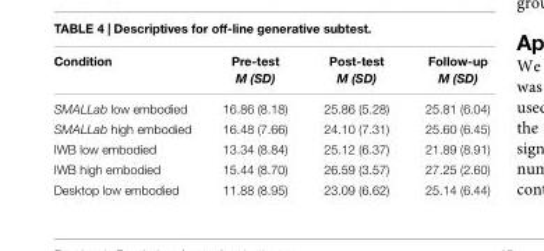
<table><thead><tr><td>Condition</td><td>Pre-test M (SD)</td><td>Post-test M (SD)</td><td>Follow-up M (SD)</td></tr></thead><tbody><tr><td>SMALLab low embodied</td><td>16.86 (8.18)</td><td>25.86 (5.28)</td><td>25.81 (6.04)</td></tr><tr><td>SMALLab high embodied</td><td>16.48 (7.66)</td><td>24.10 (7.31)</td><td>25.60 (6.45)</td></tr><tr><td>IWB low embodied</td><td>13.34 (8.84)</td><td>25.12 (6.37)</td><td>21.89 (8.91)</td></tr><tr><td>IWB high embodied</td><td>15.44 (8.70)</td><td>26.59 (3.57)</td><td>27.25 (2.60)</td></tr><tr><td>Desktop low embodied</td><td>11.88 (8.95)</td><td>23.09 (6.62)</td><td>25.14 (6.44)</td></tr></tbody></table>